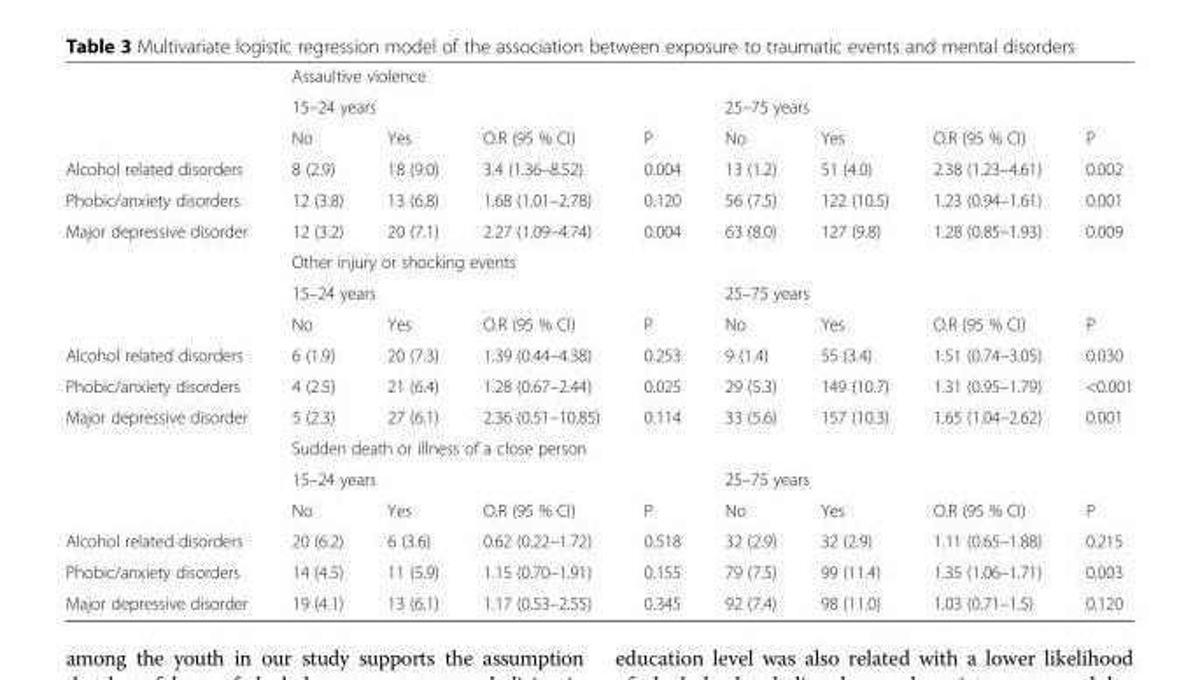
<table><thead><tr><td rowspan="3"></td><td colspan="8">Assaultive violence</td></tr><tr><td colspan="4">15–24 years</td><td colspan="4">25–75 years</td></tr><tr><td>No</td><td>Yes</td><td>O.R (95 % CI)</td><td>P</td><td>No</td><td>Yes</td><td>O.R (95 % CI)</td><td>P</td></tr></thead><tbody><tr><td>Alcohol related disorders</td><td>8 (2.9)</td><td>18 (9.0)</td><td>3.4 (1.36–8.52)</td><td>0.004</td><td>13 (1.2)</td><td>51 (4.0)</td><td>2.38 (1.23–4.61)</td><td>0.002</td></tr><tr><td>Phobic/anxiety disorders</td><td>12 (3.8)</td><td>13 (6.8)</td><td>1.68 (1.01–2.78)</td><td>0.120</td><td>56 (7.5)</td><td>122 (10.5)</td><td>1.23 (0.94–1.61)</td><td>0.001</td></tr><tr><td rowspan="4">Major depressive disorder</td><td>12 (3.2)</td><td>20 (7.1)</td><td>2.27 (1.09–4.74)</td><td>0.004</td><td>63 (8.0)</td><td>127 (9.8)</td><td>1.28 (0.85–1.93)</td><td>0.009</td></tr><tr><td colspan="8">Other injury or shocking events</td></tr><tr><td colspan="4">15–24 years</td><td colspan="4">25–75 years</td></tr><tr><td>No</td><td>Yes</td><td>O.R (95 % CI)</td><td>P</td><td>No</td><td>Yes</td><td>O.R (95 % CI)</td><td>P</td></tr><tr><td>Alcohol related disorders</td><td>6 (1.9)</td><td>20 (7.3)</td><td>1.39 (0.44–4.38)</td><td>0.253</td><td>9 (1.4)</td><td>55 (3.4)</td><td>1.51 (0.74–3.05)</td><td>0.030</td></tr><tr><td>Phobic/anxiety disorders</td><td>4 (2.5)</td><td>21 (6.4)</td><td>1.28 (0.67–2.44)</td><td>0.025</td><td>29 (5.3)</td><td>149 (10.7)</td><td>1.31 (0.95–1.79)</td><td>&lt;0.001</td></tr><tr><td rowspan="4">Major depressive disorder</td><td>5 (2.3)</td><td>27 (6.1)</td><td>2.36 (0.51–10.85)</td><td>0.114</td><td>33 (5.6)</td><td>157 (10.3)</td><td>1.65 (1.04–2.62)</td><td>0.001</td></tr><tr><td colspan="8">Sudden death or illness of a close person</td></tr><tr><td colspan="4">15–24 years</td><td colspan="4">25–75 years</td></tr><tr><td>No</td><td>Yes</td><td>O.R (95 % CI)</td><td>P</td><td>No</td><td>Yes</td><td>O.R (95 % CI)</td><td>P</td></tr><tr><td>Alcohol related disorders</td><td>20 (6.2)</td><td>6 (3.6)</td><td>0.62 (0.22–1.72)</td><td>0.518</td><td>32 (2.9)</td><td>32 (2.9)</td><td>1.11 (0.65–1.88)</td><td>0.215</td></tr><tr><td>Phobic/anxiety disorders</td><td>14 (4.5)</td><td>11 (5.9)</td><td>1.15 (0.70–1.91)</td><td>0.155</td><td>79 (7.5)</td><td>99 (11.4)</td><td>1.35 (1.06–1.71)</td><td>0.003</td></tr><tr><td>Major depressive disorder</td><td>19 (4.1)</td><td>13 (6.1)</td><td>1.17 (0.53–2.55)</td><td>0.345</td><td>92 (7.4)</td><td>98 (11.0)</td><td>1.03 (0.71–1.5)</td><td>0.120</td></tr></tbody></table>